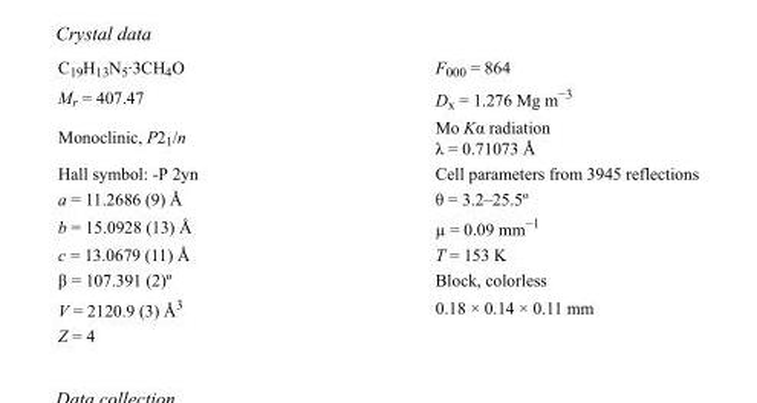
<table><tbody><tr><td>C<sub>19</sub>H<sub>13</sub>N<sub>5</sub>·3CH<sub>4</sub>O</td><td>F000 = 864</td></tr><tr><td>M<sub>r</sub> = 407.47</td><td>D<sub>x</sub> = 1.276 Mg m<sup>−3</sup></td></tr><tr><td>Monoclinic, P2<sub>1</sub>/n</td><td>Mo Kα radiation λ = 0.71073 Å</td></tr><tr><td>Hall symbol: -P 2yn</td><td>Cell parameters from 3945 reflections</td></tr><tr><td>a = 11.2686 (9) Å</td><td>θ = 3.2–25.5º</td></tr><tr><td>b = 15.0928 (13) Å</td><td>µ = 0.09 mm<sup>−1</sup></td></tr><tr><td>c = 13.0679 (11) Å</td><td>T = 153 K</td></tr><tr><td>β = 107.391 (2)º</td><td>Block, colorless</td></tr><tr><td>V = 2120.9 (3) Å<sup>3</sup></td><td>0.18 × 0.14 × 0.11 mm</td></tr><tr><td>Z = 4</td><td></td></tr></tbody></table>